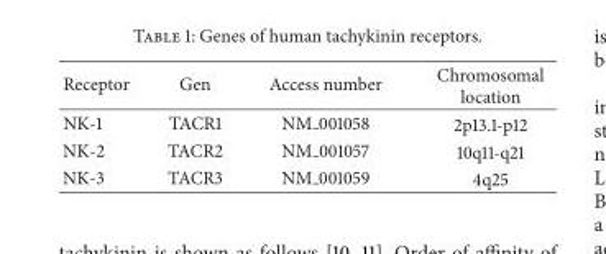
<table><thead><tr><td>Receptor</td><td>Gen</td><td>Access number</td><td>Chromosomal location</td></tr></thead><tbody><tr><td>NK-1</td><td>TACR1</td><td>NM 001058</td><td>2p13.1-p12</td></tr><tr><td>NK-2</td><td>TACR2</td><td>NM 001057</td><td>10q11-q21</td></tr><tr><td>NK-3</td><td>TACR3</td><td>NM 001059</td><td>4q25</td></tr></tbody></table>